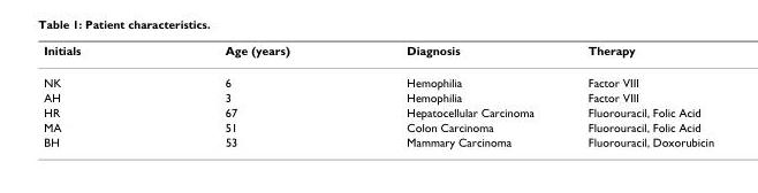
<table><thead><tr><td>Initials</td><td>Age (years)</td><td>Diagnosis</td><td>Therapy</td></tr></thead><tbody><tr><td>NK</td><td>6</td><td>Hemophilia</td><td>Factor VIII</td></tr><tr><td>AH</td><td>3</td><td>Hemophilia</td><td>Factor VIII</td></tr><tr><td>HR</td><td>67</td><td>Hepatocellular Carcinoma</td><td>Fluorouracil, Folic Acid</td></tr><tr><td>MA</td><td>51</td><td>Colon Carcinoma</td><td>Fluorouracil, Folic Acid</td></tr><tr><td>BH</td><td>53</td><td>Mammary Carcinoma</td><td>Fluorouracil, Doxorubicin</td></tr></tbody></table>